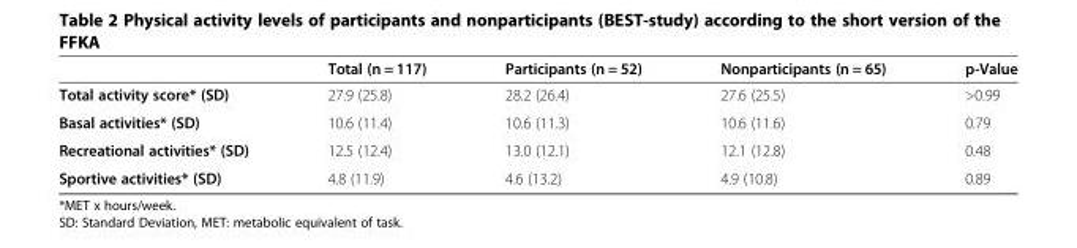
<table><thead><tr><td></td><td>Total (n = 117)</td><td>Participants (n = 52)</td><td>Nonparticipants (n = 65)</td><td>p-Value</td></tr></thead><tbody><tr><td>Total activity score* (SD)</td><td>27.9 (25.8)</td><td>28.2 (26.4)</td><td>27.6 (25.5)</td><td>&gt;0.99</td></tr><tr><td>Basal activities* (SD)</td><td>10.6 (11.4)</td><td>10.6 (11.3)</td><td>10.6 (11.6)</td><td>0.79</td></tr><tr><td>Recreational activities* (SD)</td><td>12.5 (12.4)</td><td>13.0 (12.1)</td><td>12.1 (12.8)</td><td>0.48</td></tr><tr><td>Sportive activities* (SD)</td><td>4.8 (11.9)</td><td>4.6 (13.2)</td><td>4.9 (10.8)</td><td>0.89</td></tr></tbody></table>